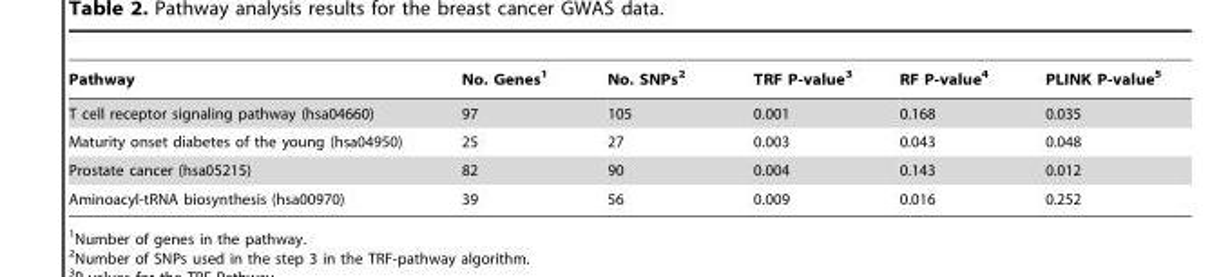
<table><thead><tr><td>Pathway</td><td>No. Genes<sup>1</sup></td><td>No. SNPs<sup>2</sup></td><td>TRF P-value<sup>3</sup></td><td>RF P-value<sup>4</sup></td><td>PLINK P-value<sup>5</sup></td></tr></thead><tbody><tr><td>T cell receptor signaling pathway (hsa04660)</td><td>97</td><td>105</td><td>0.001</td><td>0.168</td><td>0.035</td></tr><tr><td>Maturity onset diabetes of the young (hsa04950)</td><td>25</td><td>27</td><td>0.003</td><td>0.043</td><td>0.048</td></tr><tr><td>Prostate cancer (hsa05215)</td><td>82</td><td>90</td><td>0.004</td><td>0.143</td><td>0.012</td></tr><tr><td>Aminoacyl-tRNA biosynthesis (hsa00970)</td><td>39</td><td>56</td><td>0.009</td><td>0.016</td><td>0.252</td></tr></tbody></table>